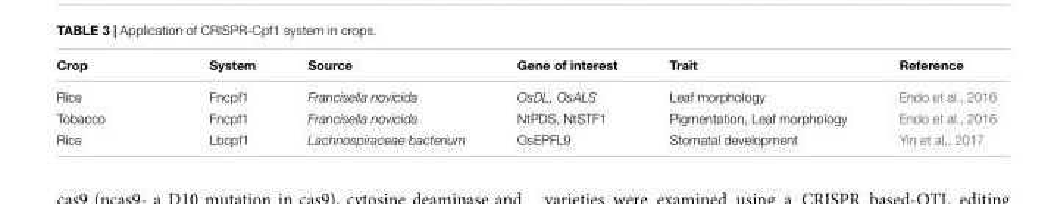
<table><thead><tr><td>Crop</td><td>System</td><td>Source</td><td>Gene of interest</td><td>Trait</td><td>Reference</td></tr></thead><tbody><tr><td>Rice</td><td>Fncpf1</td><td>Francisella novicida</td><td>OsDL, OsALS</td><td>Leaf morphology</td><td>Endo et al., 2016</td></tr><tr><td>Tobacco</td><td>Fncpf1</td><td>Francisella novicida</td><td>NtPDS, NtSTF1</td><td>Pigmentation, Leaf morphology</td><td>Endo et al., 2016</td></tr><tr><td>Rice</td><td>Lbcpf1</td><td>Lachnospiraceae bacterium</td><td>OsEPFL9</td><td>Stomatal development</td><td>Yin et al., 2017</td></tr></tbody></table>